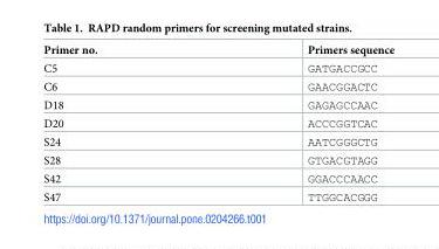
<table><tbody><tr><td>Primer no.</td><td>Primers sequence</td></tr><tr><td>C5</td><td>GATGACCGCC</td></tr><tr><td>C6</td><td>GAACGGACTC</td></tr><tr><td>D18</td><td>GAGAGCCAAC</td></tr><tr><td>D20</td><td>ACCCGGTCAC</td></tr><tr><td>S24</td><td>AATCGGGCTG</td></tr><tr><td>S28</td><td>GTGACGTAGG</td></tr><tr><td>S42</td><td>GGACCCAACC</td></tr><tr><td>S47</td><td>TTGGCACGGG</td></tr></tbody></table>